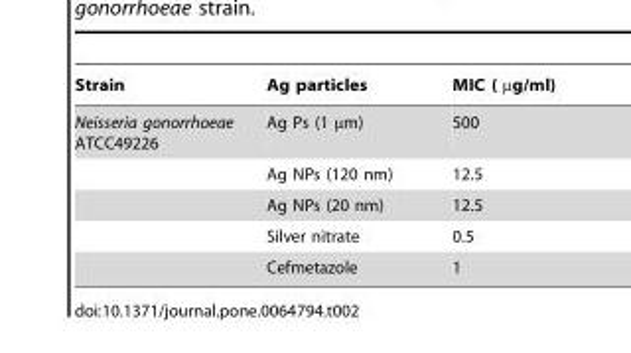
<table><thead><tr><td>Strain</td><td>Ag particles</td><td>MIC ( µg/ml)</td></tr></thead><tbody><tr><td rowspan="5">Neisseria gonorrhoeae ATCC49226</td><td>Ag Ps (1 µm)</td><td>500</td></tr><tr><td>Ag NPs (120 nm)</td><td>12.5</td></tr><tr><td>Ag NPs (20 nm)</td><td>12.5</td></tr><tr><td>Silver nitrate</td><td>0.5</td></tr><tr><td>Cefmetazole</td><td>1</td></tr></tbody></table>